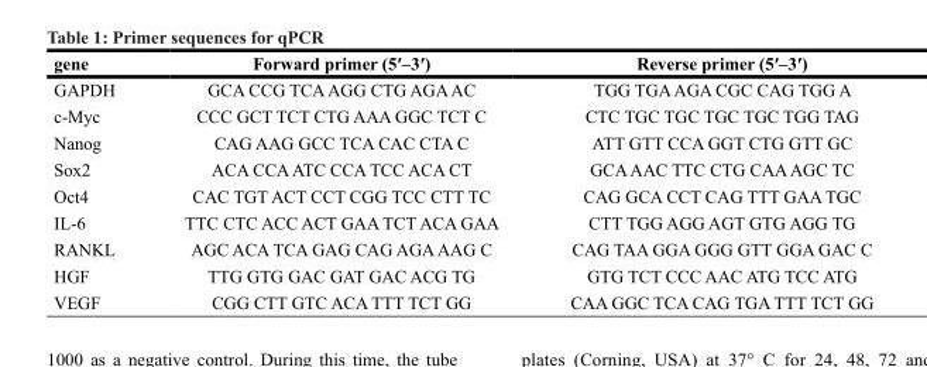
<table><thead><tr><td>gene</td><td>Forward primer (5′–3′)</td><td>Reverse primer (5′–3′)</td></tr></thead><tbody><tr><td>GAPDH</td><td>GCA CCG TCA AGG CTG AGA AC</td><td>TGG TGA AGA CGC CAG TGG A</td></tr><tr><td>c-Myc</td><td>CCC GCT TCT CTG AAA GGC TCT C</td><td>CTC TGC TGC TGC TGC TGG TAG</td></tr><tr><td>Nanog</td><td>CAG AAG GCC TCA CAC CTA C</td><td>ATT GTT CCA GGT CTG GTT GC</td></tr><tr><td>Sox2</td><td>ACA CCA ATC CCA TCC ACA CT</td><td>GCA AAC TTC CTG CAA AGC TC</td></tr><tr><td>Oct4</td><td>CAC TGT ACT CCT CGG TCC CTT TC</td><td>CAG GCA CCT CAG TTT GAA TGC</td></tr><tr><td>IL-6</td><td>TTC CTC ACC ACT GAA TCT ACA GAA</td><td>CTT TGG AGG AGT GTG AGG TG</td></tr><tr><td>RANKL</td><td>AGC ACA TCA GAG CAG AGA AAG C</td><td>CAG TAA GGA GGG GTT GGA GAC C</td></tr><tr><td>HGF</td><td>TTG GTG GAC GAT GAC ACG TG</td><td>GTG TCT CCC AAC ATG TCC ATG</td></tr><tr><td>VEGF</td><td>CGG CTT GTC ACA TTT TCT GG</td><td>CAA GGC TCA CAG TGA TTT TCT GG</td></tr></tbody></table>